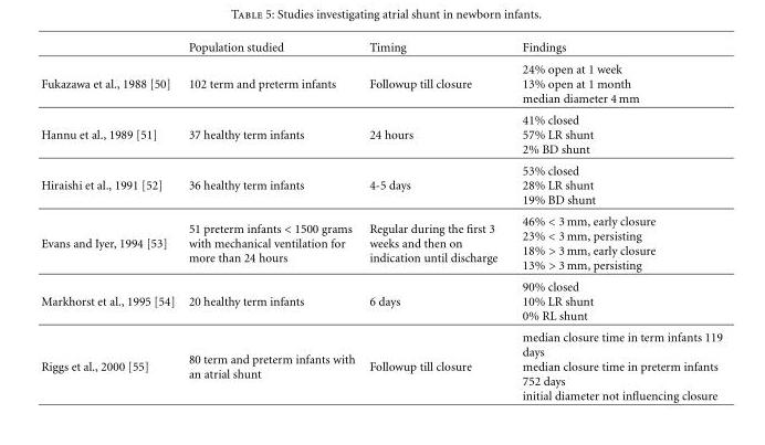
<table><thead><tr><td></td><td>Population studied</td><td>Timing</td><td>Findings</td></tr></thead><tbody><tr><td>Fukazawa et al., 1988 [50]</td><td>102 term and preterm infants</td><td>Followup till closure</td><td>24% open at 1 week 13% open at 1 month median diameter 4 mm</td></tr><tr><td>Hannu et al., 1989 [51]</td><td>37 healthy term infants</td><td>24 hours</td><td>41% closed 57% LR shunt 2% BD shunt</td></tr><tr><td>Hiraishi et al., 1991 [52]</td><td>36 healthy term infants</td><td>4-5 days</td><td>53% closed 28% LR shunt 19% BD shunt</td></tr><tr><td>Evans and Iyer, 1994 [53]</td><td>51 preterm infants &lt; 1500 grams with mechanical ventilation for more than 24 hours</td><td>Regular during the first 3 weeks and then on indication until discharge</td><td>46% &lt; 3 mm, early closure 23% &lt; 3 mm, persisting 18% &gt; 3 mm, early closure 13% &gt; 3 mm, persisting</td></tr><tr><td>Markhorst et al., 1995 [54]</td><td>20 healthy term infants</td><td>6 days</td><td>90% closed 10% LR shunt 0% RL shunt</td></tr><tr><td>Riggs et al., 2000 [55]</td><td>80 term and preterm infants with an atrial shunt</td><td>Followup till closure</td><td>median closure time in term infants 119 days median closure time in preterm infants 752 days initial diameter not influencing closure</td></tr></tbody></table>